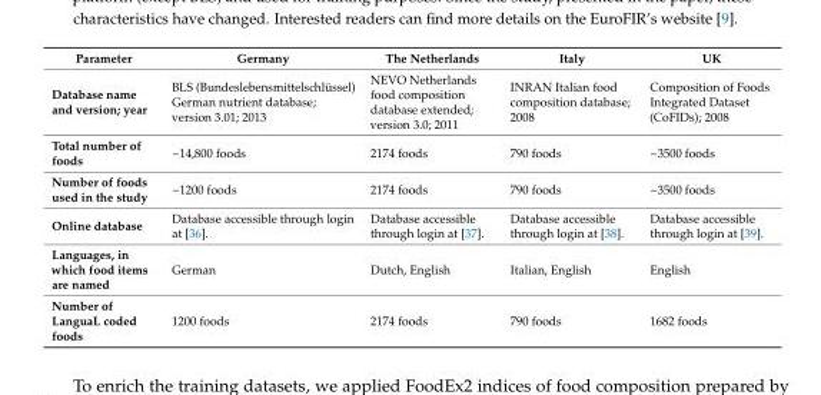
<table><thead><tr><td>Parameter</td><td>Germany</td><td>The Netherlands</td><td>Italy</td><td>UK</td></tr></thead><tbody><tr><td>Database name and version; year</td><td>BLS (Bundeslebensmittelschlüssel) German nutrient database; version 3.01; 2013</td><td>NEVO Netherlands food composition database extended; version 3.0; 2011</td><td>INRAN Italian food composition database; 2008</td><td>Composition of Foods Integrated Dataset (CoFIDs); 2008</td></tr><tr><td>Total number of foods</td><td>~14,800 foods</td><td>2174 foods</td><td>790 foods</td><td>~3500 foods</td></tr><tr><td>Number of foods used in the study</td><td>~1200 foods</td><td>2174 foods</td><td>790 foods</td><td>~3500 foods</td></tr><tr><td>Online database</td><td>Database accessible through login at [36].</td><td>Database accessible through login at [37].</td><td>Database accessible through login at [38].</td><td>Database accessible through login at [39].</td></tr><tr><td>Languages, in which food items are named</td><td>German</td><td>Dutch, English</td><td>Italian, English</td><td>English</td></tr><tr><td>Number of LanguaL coded foods</td><td>1200 foods</td><td>2174 foods</td><td>790 foods</td><td>1682 foods</td></tr></tbody></table>